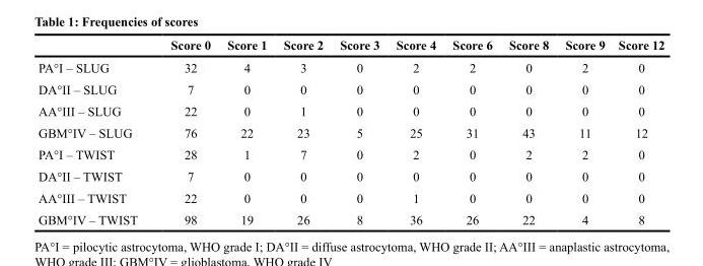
<table><thead><tr><td></td><td>Score 0</td><td>Score 1</td><td>Score 2</td><td>Score 3</td><td>Score 4</td><td>Score 6</td><td>Score 8</td><td>Score 9</td><td>Score 12</td></tr></thead><tbody><tr><td>PA°I – SLUG</td><td>32</td><td>4</td><td>3</td><td>0</td><td>2</td><td>2</td><td>0</td><td>2</td><td>0</td></tr><tr><td>DA°II – SLUG</td><td>7</td><td>0</td><td>0</td><td>0</td><td>0</td><td>0</td><td>0</td><td>0</td><td>0</td></tr><tr><td>AA°III – SLUG</td><td>22</td><td>0</td><td>1</td><td>0</td><td>0</td><td>0</td><td>0</td><td>0</td><td>0</td></tr><tr><td>GBM°IV – SLUG</td><td>76</td><td>22</td><td>23</td><td>5</td><td>25</td><td>31</td><td>43</td><td>11</td><td>12</td></tr><tr><td>PA°I – TWIST</td><td>28</td><td>1</td><td>7</td><td>0</td><td>2</td><td>0</td><td>2</td><td>2</td><td>0</td></tr><tr><td>DA°II – TWIST</td><td>7</td><td>0</td><td>0</td><td>0</td><td>0</td><td>0</td><td>0</td><td>0</td><td>0</td></tr><tr><td>AA°III – TWIST</td><td>22</td><td>0</td><td>0</td><td>0</td><td>1</td><td>0</td><td>0</td><td>0</td><td>0</td></tr><tr><td>GBM°IV – TWIST</td><td>98</td><td>19</td><td>26</td><td>8</td><td>36</td><td>26</td><td>22</td><td>4</td><td>8</td></tr></tbody></table>